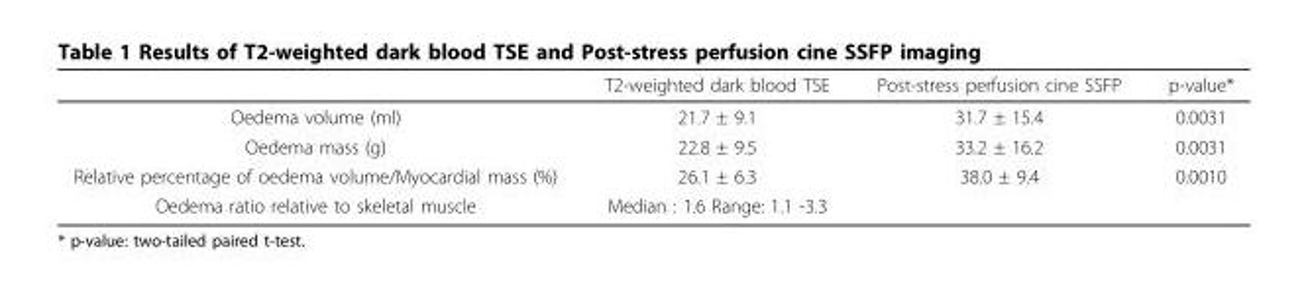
<table><thead><tr><td></td><td>T2-weighted dark blood TSE</td><td>Post-stress perfusion cine SSFP</td><td>p-value*</td></tr></thead><tbody><tr><td>Oedema volume (ml)</td><td>21.7 ± 9.1</td><td>31.7 ± 15.4</td><td>0.0031</td></tr><tr><td>Oedema mass (g)</td><td>22.8 ± 9.5</td><td>33.2 ± 16.2</td><td>0.0031</td></tr><tr><td>Relative percentage of oedema volume/Myocardial mass (%)</td><td>26.1 ± 6.3</td><td>38.0 ± 9.4</td><td>0.0010</td></tr><tr><td>Oedema ratio relative to skeletal muscle</td><td>Median : 1.6 Range: 1.1 -3.3</td><td></td><td></td></tr></tbody></table>